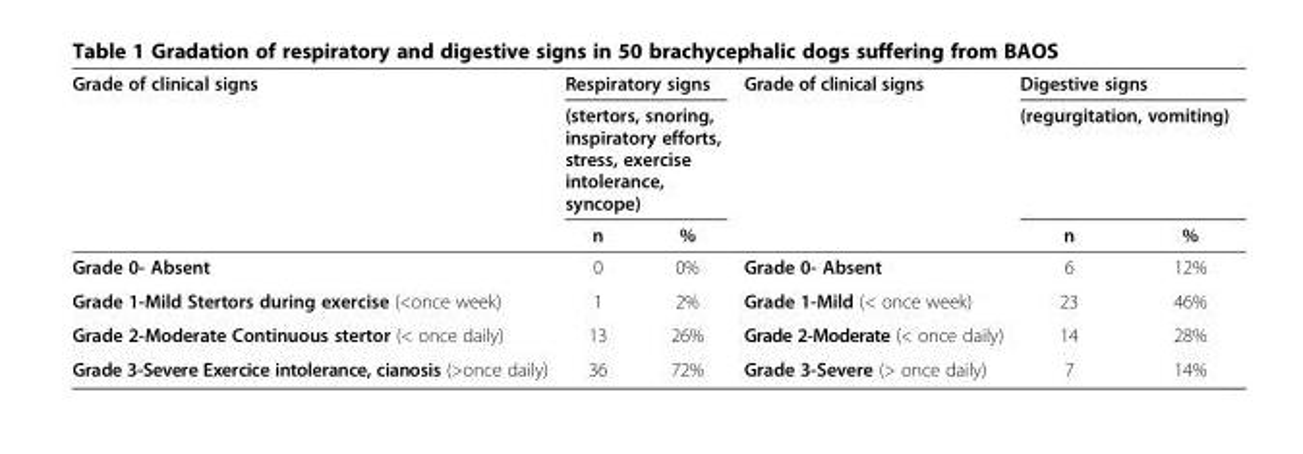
<table><thead><tr><td rowspan="3">Grade of clinical signs</td><td rowspan="2" colspan="2">Respiratory signs (stertors, snoring, inspiratory efforts, stress, exercise intolerance, syncope)</td><td rowspan="3">Grade of clinical signs</td><td rowspan="2" colspan="2">Digestive signs (regurgitation, vomiting)</td></tr><tr></tr><tr><td>n</td><td>%</td><td>n</td><td>%</td></tr></thead><tbody><tr><td>Grade 0- Absent</td><td>0</td><td>0%</td><td>Grade 0- Absent</td><td>6</td><td>12%</td></tr><tr><td>Grade 1-Mild Stertors during exercise (&lt;once week)</td><td>1</td><td>2%</td><td>Grade 1-Mild (&lt; once week)</td><td>23</td><td>46%</td></tr><tr><td>Grade 2-Moderate Continuous stertor (&lt; once daily)</td><td>13</td><td>26%</td><td>Grade 2-Moderate (&lt; once daily)</td><td>14</td><td>28%</td></tr><tr><td>Grade 3-Severe Exercice intolerance, cianosis (&gt;once daily)</td><td>36</td><td>72%</td><td>Grade 3-Severe (&gt; once daily)</td><td>7</td><td>14%</td></tr></tbody></table>